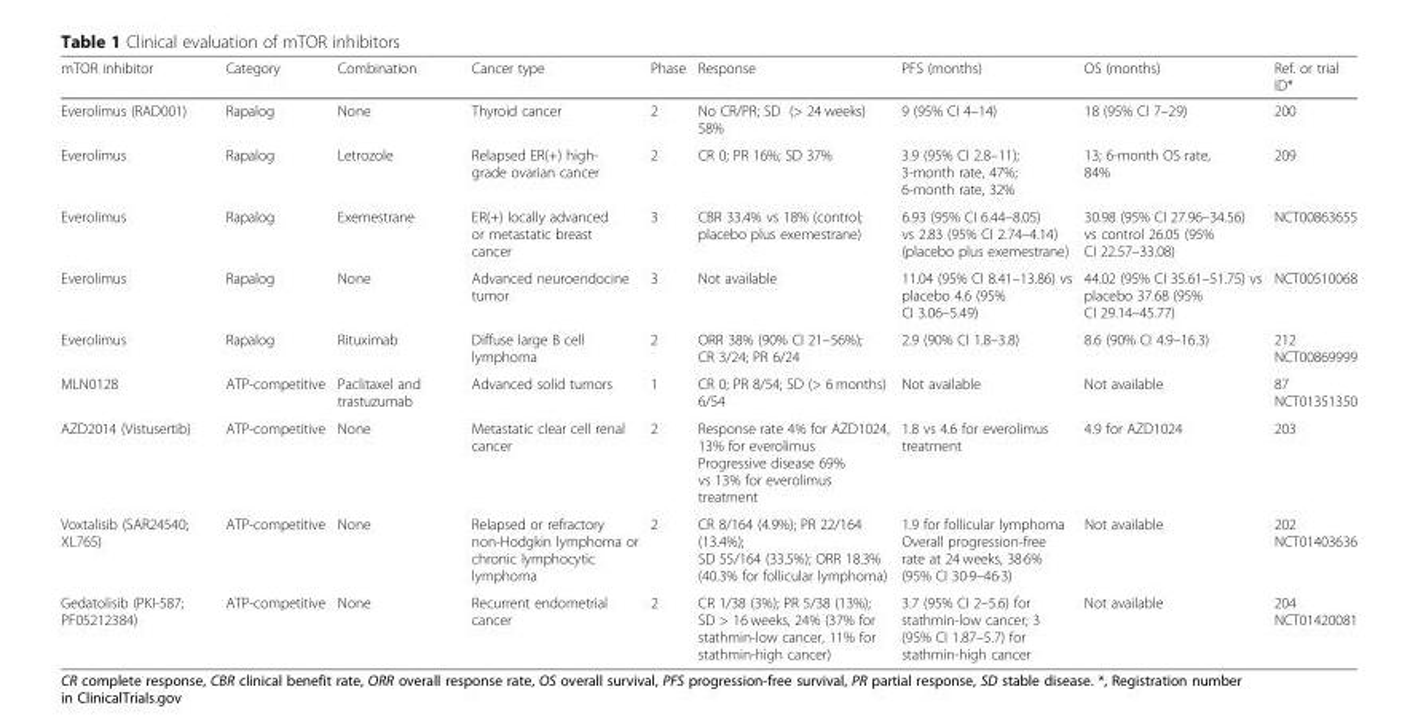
<table><thead><tr><td>mTOR inhibitor</td><td>Category</td><td>Combination</td><td>Cancer type</td><td>Phase</td><td>Response</td><td>PFS (months)</td><td>OS (months)</td><td>Ref. or trial ID*</td></tr></thead><tbody><tr><td>Everolimus (RAD001)</td><td>Rapalog</td><td>None</td><td>Thyroid cancer</td><td>2</td><td>No CR/PR; SD (&gt; 24 weeks) 58%</td><td>9 (95% CI 4–14)</td><td>18 (95% CI 7–29)</td><td>200</td></tr><tr><td>Everolimus</td><td>Rapalog</td><td>Letrozole</td><td>Relapsed ER(+) high- grade ovarian cancer</td><td>2</td><td>CR 0; PR 16%; SD 37%</td><td>3.9 (95% CI 2.8–11); 3-month rate, 47%; 6-month rate, 32%</td><td>13; 6-month OS rate, 84%</td><td>209</td></tr><tr><td>Everolimus</td><td>Rapalog</td><td>Exemestrane</td><td>ER(+) locally advanced or metastatic breast cancer</td><td>3</td><td>CBR 33.4% vs 18% (control; placebo plus exemestrane)</td><td>6.93 (95% CI 6.44–8.05) vs 2.83 (95% CI 2.74–4.14) (placebo plus exemestrane)</td><td>30.98 (95% CI 27.96–34.56) vs control 26.05 (95% CI 22.57–33.08)</td><td>NCT00863655</td></tr><tr><td>Everolimus</td><td>Rapalog</td><td>None</td><td>Advanced neuroendocine tumor</td><td>3</td><td>Not available</td><td>11.04 (95% CI 8.41–13.86) vs placebo 4.6 (95% CI 3.06–5.49)</td><td>44.02 (95% CI 35.61–51.75) vs placebo 37.68 (95% CI 29.14–45.77)</td><td>NCT00510068</td></tr><tr><td>Everolimus</td><td>Rapalog</td><td>Rituximab</td><td>Diffuse large B cell lymphoma</td><td>2</td><td>ORR 38% (90% CI 21–56%); CR 3/24; PR 6/24</td><td>2.9 (90% CI 1.8–3.8)</td><td>8.6 (90% CI 4.9–16.3)</td><td>212 NCT00869999</td></tr><tr><td>MLN0128</td><td>ATP-competitive</td><td>Paclitaxel and trastuzumab</td><td>Advanced solid tumors</td><td>1</td><td>CR 0; PR 8/54; SD (&gt; 6 months) 6/54</td><td>Not available</td><td>Not available</td><td>87 NCT01351350</td></tr><tr><td>AZD2014 (Vistusertib)</td><td>ATP-competitive</td><td>None</td><td>Metastatic clear cell renal cancer</td><td>2</td><td>Response rate 4% for AZD1024, 13% for everolimus Progressive disease 69% vs 13% for everolimus treatment</td><td>1.8 vs 4.6 for everolimus treatment</td><td>4.9 for AZD1024</td><td>203</td></tr><tr><td>Voxtalisib (SAR24540; XL765)</td><td>ATP-competitive</td><td>None</td><td>Relapsed or refractory non-Hodgkin lymphoma or chronic lymphocytic lymphoma</td><td>2</td><td>CR 8/164 (4.9%); PR 22/164 (13.4%); SD 55/164 (33.5%); ORR 18.3% (40.3% for follicular lymphoma)</td><td>1.9 for follicular lymphoma Overall progression-free rate at 24 weeks, 38·6% (95% CI 30·9–46·3)</td><td>Not available</td><td>202 NCT01403636</td></tr><tr><td>Gedatolisib (PKI-587; PF05212384)</td><td>ATP-competitive</td><td>None</td><td>Recurrent endometrial cancer</td><td>2</td><td>CR 1/38 (3%); PR 5/38 (13%); SD &gt; 16 weeks, 24% (37% for stathmin-low cancer, 11% for stathmin-high cancer)</td><td>3.7 (95% CI 2–5.6) for stathmin-low cancer; 3 (95% CI 1.87–5.7) for stathmin-high cancer</td><td>Not available</td><td>204 NCT01420081</td></tr></tbody></table>